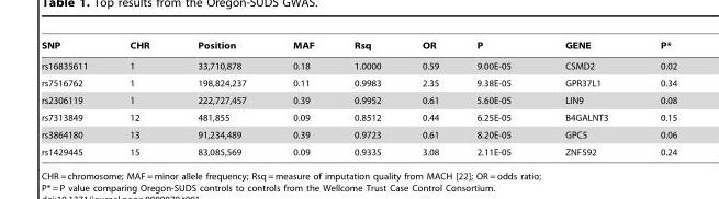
<table><thead><tr><td>SNP</td><td>CHR</td><td>Position</td><td>MAF</td><td>Rsq</td><td>OR</td><td>P</td><td>GENE</td><td>P*</td></tr></thead><tbody><tr><td>rs16835611</td><td>1</td><td>33,710,878</td><td>0.18</td><td>1.0000</td><td>0.59</td><td>9.00E-05</td><td>CSMD2</td><td>0.02</td></tr><tr><td>rs7516762</td><td>1</td><td>198,824,237</td><td>0.11</td><td>0.9983</td><td>2.35</td><td>9.38E-05</td><td>GPR37L1</td><td>0.34</td></tr><tr><td>rs2306119</td><td>1</td><td>222,727,457</td><td>0.39</td><td>0.9952</td><td>0.61</td><td>5.60E-05</td><td>LIN9</td><td>0.08</td></tr><tr><td>rs7313849</td><td>12</td><td>481,855</td><td>0.09</td><td>0.8512</td><td>0.44</td><td>6.25E-05</td><td>B4GALNT3</td><td>0.15</td></tr><tr><td>rs3864180</td><td>13</td><td>91,234,489</td><td>0.39</td><td>0.9723</td><td>0.61</td><td>8.20E-05</td><td>GPC5</td><td>0.06</td></tr><tr><td>rs1429445</td><td>15</td><td>83,085,569</td><td>0.09</td><td>0.9335</td><td>3.08</td><td>2.11E-05</td><td>ZNF592</td><td>0.24</td></tr></tbody></table>